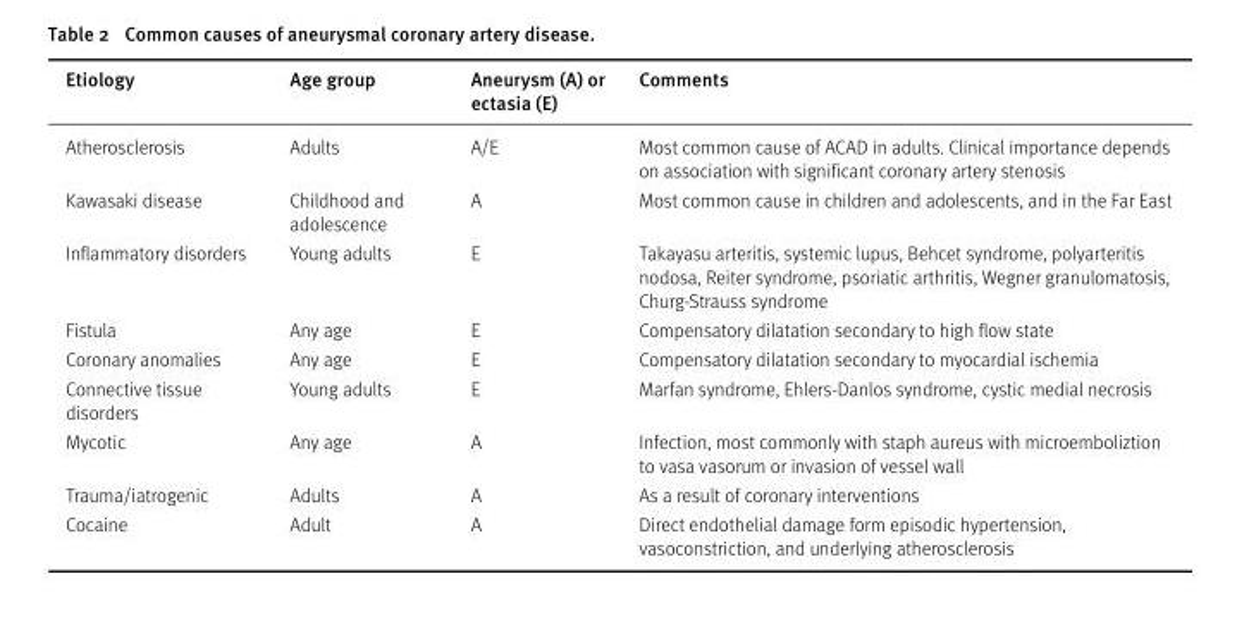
<table><thead><tr><td>Etiology</td><td>Age group</td><td>Aneurysm (A) or ectasia (E)</td><td>Comments</td></tr></thead><tbody><tr><td>Atherosclerosis</td><td>Adults</td><td>A/E</td><td>Most common cause of ACAD in adults. Clinical importance depends on association with significant coronary artery stenosis</td></tr><tr><td>Kawasaki disease</td><td>Childhood and adolescence</td><td>A</td><td>Most common cause in children and adolescents, and in the Far East</td></tr><tr><td>Inflammatory disorders</td><td>Young adults</td><td>E</td><td>Takayasu arteritis, systemic lupus, Behcet syndrome, polyarteritis nodosa, Reiter syndrome, psoriatic arthritis, Wegner granulomatosis, Churg-Strauss syndrome</td></tr><tr><td>Fistula</td><td>Any age</td><td>E</td><td>Compensatory dilatation secondary to high flow state</td></tr><tr><td>Coronary anomalies</td><td>Any age</td><td>E</td><td>Compensatory dilatation secondary to myocardial ischemia</td></tr><tr><td>Connective tissue disorders</td><td>Young adults</td><td>E</td><td>Marfan syndrome, Ehlers-Danlos syndrome, cystic medial necrosis</td></tr><tr><td>Mycotic</td><td>Any age</td><td>A</td><td>Infection, most commonly with staph aureus with microemboliztion to vasa vasorum or invasion of vessel wall</td></tr><tr><td>Trauma/iatrogenic</td><td>Adults</td><td>A</td><td>As a result of coronary interventions</td></tr><tr><td>Cocaine</td><td>Adult</td><td>A</td><td>Direct endothelial damage form episodic hypertension, vasoconstriction, and underlying atherosclerosis</td></tr></tbody></table>